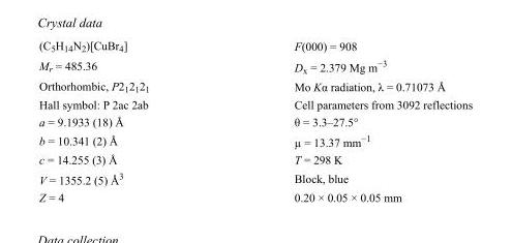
<table><tbody><tr><td>(C<sub>5</sub>H<sub>14</sub>N<sub>2</sub>)[CuBr<sub>4</sub>]</td><td>F(000) = 908</td></tr><tr><td>M<sub>r</sub> = 485.36</td><td>D<sub>x</sub> = 2.379 Mg m<sup>−3</sup></td></tr><tr><td>Orthorhombic, P2<sub>1</sub>2<sub>1</sub>2<sub>1</sub></td><td>Mo Kα radiation, λ = 0.71073 Å</td></tr><tr><td>Hall symbol: P 2ac 2ab</td><td>Cell parameters from 3092 reflections</td></tr><tr><td>a = 9.1933 (18) Å</td><td>θ = 3.3–27.5°</td></tr><tr><td>b = 10.341 (2) Å</td><td>µ = 13.37 mm<sup>−1</sup></td></tr><tr><td>c = 14.255 (3) Å</td><td>T = 298 K</td></tr><tr><td>V = 1355.2 (5) Å<sup>3</sup></td><td>Block, blue</td></tr><tr><td>Z = 4</td><td>0.20 × 0.05 × 0.05 mm</td></tr></tbody></table>